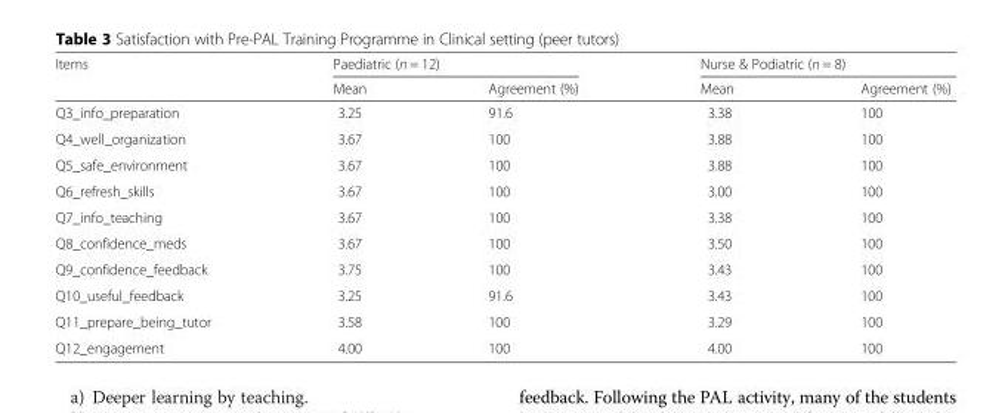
<table><thead><tr><td rowspan="2">Items</td><td colspan="2">Paediatric (n = 12)</td><td colspan="2">Nurse &amp; Podiatric (n = 8)</td></tr><tr><td>Mean</td><td>Agreement (%)</td><td>Mean</td><td>Agreement (%)</td></tr></thead><tbody><tr><td>Q3_info_preparation</td><td>3.25</td><td>91.6</td><td>3.38</td><td>100</td></tr><tr><td>Q4_well_organization</td><td>3.67</td><td>100</td><td>3.88</td><td>100</td></tr><tr><td>Q5_safe_environment</td><td>3.67</td><td>100</td><td>3.88</td><td>100</td></tr><tr><td>Q6_refresh_skills</td><td>3.67</td><td>100</td><td>3.00</td><td>100</td></tr><tr><td>Q7_info_teaching</td><td>3.67</td><td>100</td><td>3.38</td><td>100</td></tr><tr><td>Q8_confidence_meds</td><td>3.67</td><td>100</td><td>3.50</td><td>100</td></tr><tr><td>Q9_confidence_feedback</td><td>3.75</td><td>100</td><td>3.43</td><td>100</td></tr><tr><td>Q10_useful_feedback</td><td>3.25</td><td>91.6</td><td>3.43</td><td>100</td></tr><tr><td>Q11_prepare_being_tutor</td><td>3.58</td><td>100</td><td>3.29</td><td>100</td></tr><tr><td>Q12_engagement</td><td>4.00</td><td>100</td><td>4.00</td><td>100</td></tr></tbody></table>